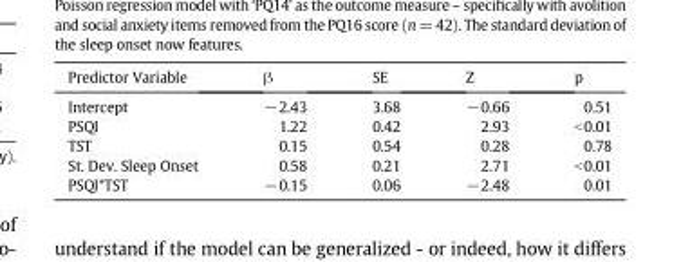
<table><thead><tr><td>Predictor Variable</td><td>β</td><td>SE</td><td>Z</td><td>p</td></tr></thead><tbody><tr><td>Intercept</td><td>−2.43</td><td>3.68</td><td>−0.66</td><td>0.51</td></tr><tr><td>PSQI</td><td>1.22</td><td>0.42</td><td>2.93</td><td>&lt;0.01</td></tr><tr><td>TST</td><td>0.15</td><td>0.54</td><td>0.28</td><td>0.78</td></tr><tr><td>St. Dev. Sleep Onset</td><td>0.58</td><td>0.21</td><td>2.71</td><td>&lt;0.01</td></tr><tr><td>PSQI*TST</td><td>−0.15</td><td>0.06</td><td>−2.48</td><td>0.01</td></tr></tbody></table>